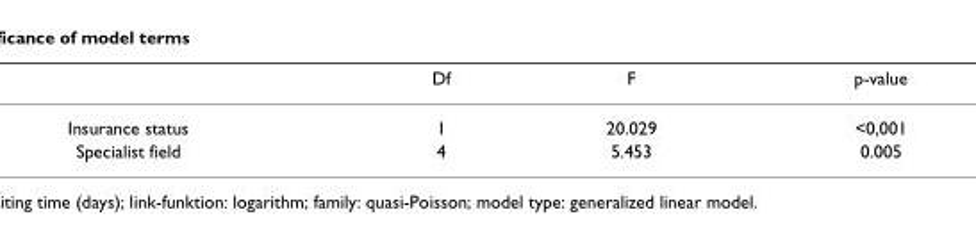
<table><thead><tr><td></td><td>Df</td><td>F</td><td>p-value</td></tr></thead><tbody><tr><td>Insurance status</td><td>1</td><td>20.029</td><td>&lt;0,001</td></tr><tr><td>Specialist field</td><td>4</td><td>5.453</td><td>0.005</td></tr></tbody></table>